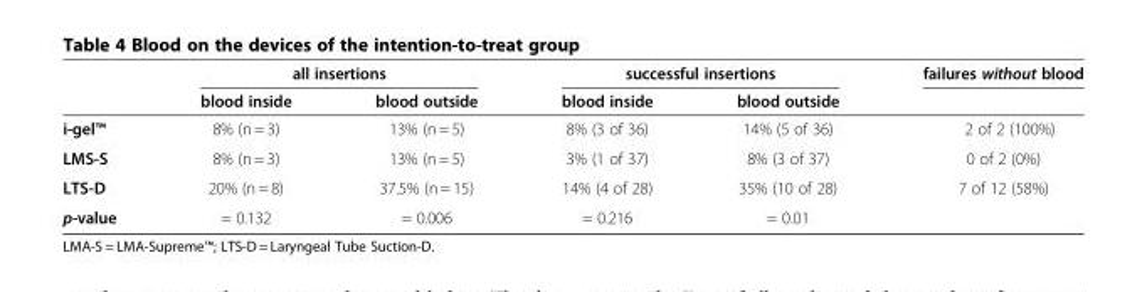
<table><thead><tr><td rowspan="2"></td><td colspan="2">all insertions</td><td colspan="2">successful insertions</td><td rowspan="2">failures without blood</td></tr><tr><td>blood inside</td><td>blood outside</td><td>blood inside</td><td>blood outside</td></tr></thead><tbody><tr><td>i-gel™</td><td>8% (n = 3)</td><td>13% (n = 5)</td><td>8% (3 of 36)</td><td>14% (5 of 36)</td><td>2 of 2 (100%)</td></tr><tr><td>LMS-S</td><td>8% (n = 3)</td><td>13% (n = 5)</td><td>3% (1 of 37)</td><td>8% (3 of 37)</td><td>0 of 2 (0%)</td></tr><tr><td>LTS-D</td><td>20% (n = 8)</td><td>37.5% (n = 15)</td><td>14% (4 of 28)</td><td>35% (10 of 28)</td><td>7 of 12 (58%)</td></tr><tr><td>p-value</td><td>= 0.132</td><td>= 0.006</td><td>= 0.216</td><td>= 0.01</td><td></td></tr></tbody></table>